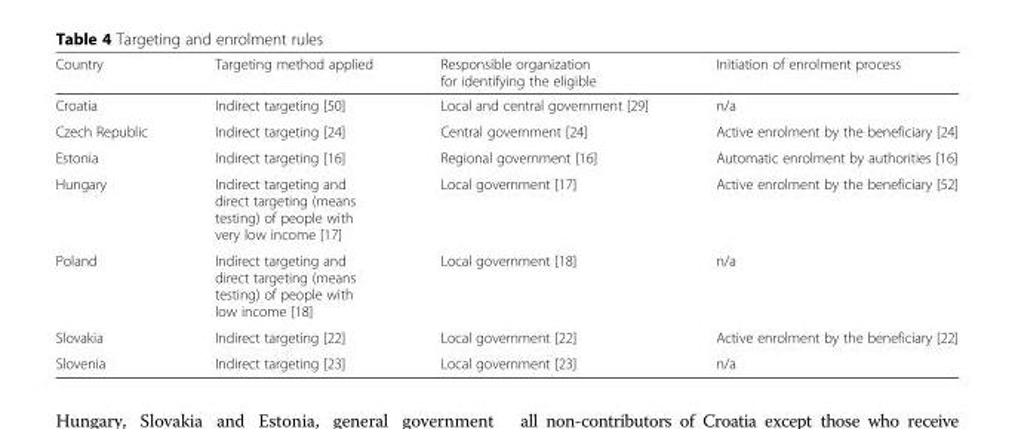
<table><thead><tr><td>Country</td><td>Targeting method applied</td><td>Responsible organization for identifying the eligible</td><td>Initiation of enrolment process</td></tr></thead><tbody><tr><td>Croatia</td><td>Indirect targeting [50]</td><td>Local and central government [29]</td><td>n/a</td></tr><tr><td>Czech Republic</td><td>Indirect targeting [24]</td><td>Central government [24]</td><td>Active enrolment by the beneficiary [24]</td></tr><tr><td>Estonia</td><td>Indirect targeting [16]</td><td>Regional government [16]</td><td>Automatic enrolment by authorities [16]</td></tr><tr><td>Hungary</td><td>Indirect targeting and direct targeting (means testing) of people with very low income [17]</td><td>Local government [17]</td><td>Active enrolment by the beneficiary [52]</td></tr><tr><td>Poland</td><td>Indirect targeting and direct targeting (means testing) of people with low income [18]</td><td>Local government [18]</td><td>n/a</td></tr><tr><td>Slovakia</td><td>Indirect targeting [22]</td><td>Local government [22]</td><td>Active enrolment by the beneficiary [22]</td></tr><tr><td>Slovenia</td><td>Indirect targeting [23]</td><td>Local government [23]</td><td>n/a</td></tr></tbody></table>